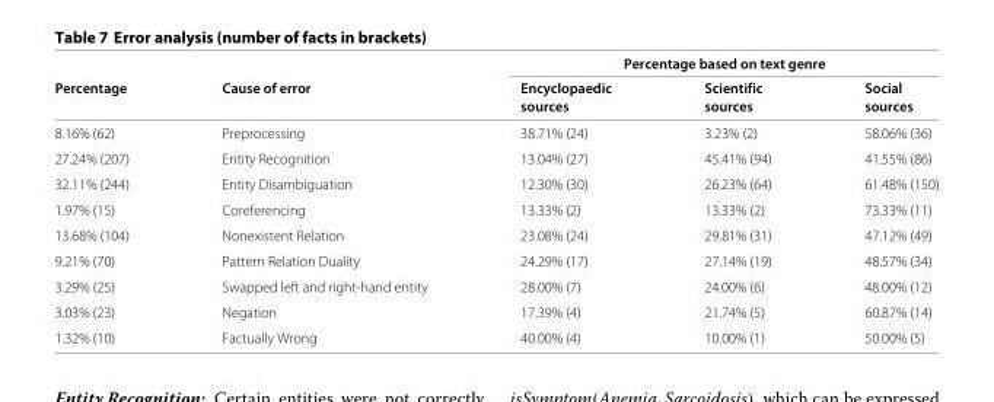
<table><thead><tr><td rowspan="3">Percentage</td><td rowspan="3">Cause of error</td><td colspan="3">Percentage based on text genre</td></tr><tr><td rowspan="2">Encyclopaedic sources</td><td rowspan="2">Scientific sources</td><td rowspan="2">Social sources</td></tr><tr></tr></thead><tbody><tr><td>8.16% (62)</td><td>Preprocessing</td><td>38.71% (24)</td><td>3.23% (2)</td><td>58.06% (36)</td></tr><tr><td>27.24% (207)</td><td>Entity Recognition</td><td>13.04% (27)</td><td>45.41% (94)</td><td>41.55% (86)</td></tr><tr><td>32.11% (244)</td><td>Entity Disambiguation</td><td>12.30% (30)</td><td>26.23% (64)</td><td>61.48% (150)</td></tr><tr><td>1.97% (15)</td><td>Coreferencing</td><td>13.33% (2)</td><td>13.33% (2)</td><td>73.33% (11)</td></tr><tr><td>13.68% (104)</td><td>Nonexistent Relation</td><td>23.08% (24)</td><td>29.81% (31)</td><td>47.12% (49)</td></tr><tr><td>9.21% (70)</td><td>Pattern Relation Duality</td><td>24.29% (17)</td><td>27.14% (19)</td><td>48.57% (34)</td></tr><tr><td>3.29% (25)</td><td>Swapped left and right-hand entity</td><td>28.00% (7)</td><td>24.00% (6)</td><td>48.00% (12)</td></tr><tr><td>3.03% (23)</td><td>Negation</td><td>17.39% (4)</td><td>21.74% (5)</td><td>60.87% (14)</td></tr><tr><td>1.32% (10)</td><td>Factually Wrong</td><td>40.00% (4)</td><td>10.00% (1)</td><td>50.00% (5)</td></tr></tbody></table>